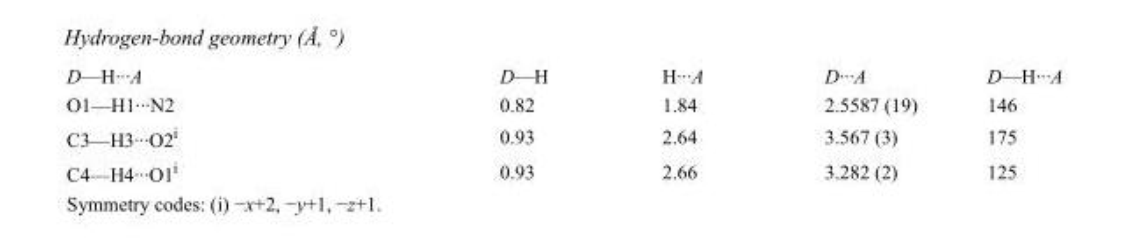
<table><tbody><tr><td>D—H···A</td><td>D—H</td><td>H···A</td><td>D···A</td><td>D—H···A</td></tr><tr><td>O1—H1···N2</td><td>0.82</td><td>1.84</td><td>2.5587 (19)</td><td>146</td></tr><tr><td>C3—H3···O2<sup>i</sup></td><td>0.93</td><td>2.64</td><td>3.567 (3)</td><td>175</td></tr><tr><td>C4—H4···O1<sup>i</sup></td><td>0.93</td><td>2.66</td><td>3.282 (2)</td><td>125</td></tr></tbody></table>